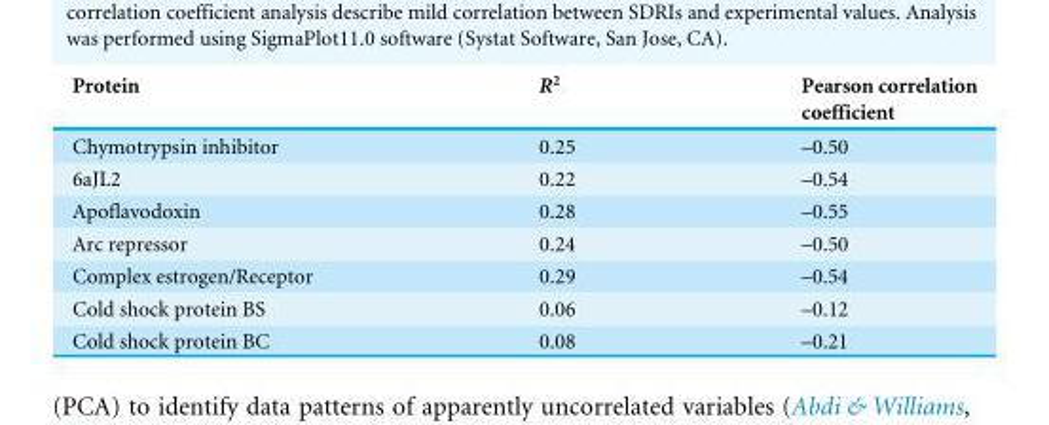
<table><thead><tr><td>Protein</td><td>R<sup>2</sup></td><td>Pearson correlation coefficient</td></tr></thead><tbody><tr><td>Chymotrypsin inhibitor</td><td>0.25</td><td>–0.50</td></tr><tr><td>6aJL2</td><td>0.22</td><td>–0.54</td></tr><tr><td>Apoflavodoxin</td><td>0.28</td><td>–0.55</td></tr><tr><td>Arc repressor</td><td>0.24</td><td>–0.50</td></tr><tr><td>Complex estrogen/Receptor</td><td>0.29</td><td>–0.54</td></tr><tr><td>Cold shock protein BS</td><td>0.06</td><td>–0.12</td></tr><tr><td>Cold shock protein BC</td><td>0.08</td><td>–0.21</td></tr></tbody></table>